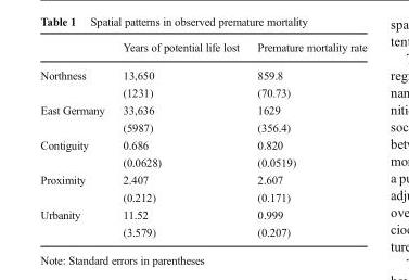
<table><thead><tr><td></td><td>Years of potential life lost</td><td>Premature mortality rate</td></tr></thead><tbody><tr><td rowspan="2">Northness</td><td>13,650</td><td>859.8</td></tr><tr><td>(1231)</td><td>(70.73)</td></tr><tr><td rowspan="2">East Germany</td><td>33,636</td><td>1629</td></tr><tr><td>(5987)</td><td>(356.4)</td></tr><tr><td rowspan="2">Contiguity</td><td>0.686</td><td>0.820</td></tr><tr><td>(0.0628)</td><td>(0.0519)</td></tr><tr><td rowspan="2">Proximity</td><td>2.407</td><td>2.607</td></tr><tr><td>(0.212)</td><td>(0.171)</td></tr><tr><td rowspan="2">Urbanity</td><td>11.52</td><td>0.999</td></tr><tr><td>(3.579)</td><td>(0.207)</td></tr></tbody></table>